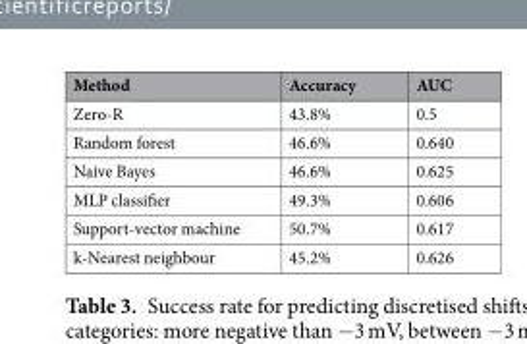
<table><thead><tr><td>Method</td><td>Accuracy</td><td>AUC</td></tr></thead><tbody><tr><td>Zero-R</td><td>43.8%</td><td>0.5</td></tr><tr><td>Random forest</td><td>46.6%</td><td>0.640</td></tr><tr><td>Naive Bayes</td><td>46.6%</td><td>0.625</td></tr><tr><td>MLP classifier</td><td>49.3%</td><td>0.606</td></tr><tr><td>Support-vector machine</td><td>50.7%</td><td>0.617</td></tr><tr><td>k-Nearest neighbour</td><td>45.2%</td><td>0.626</td></tr></tbody></table>